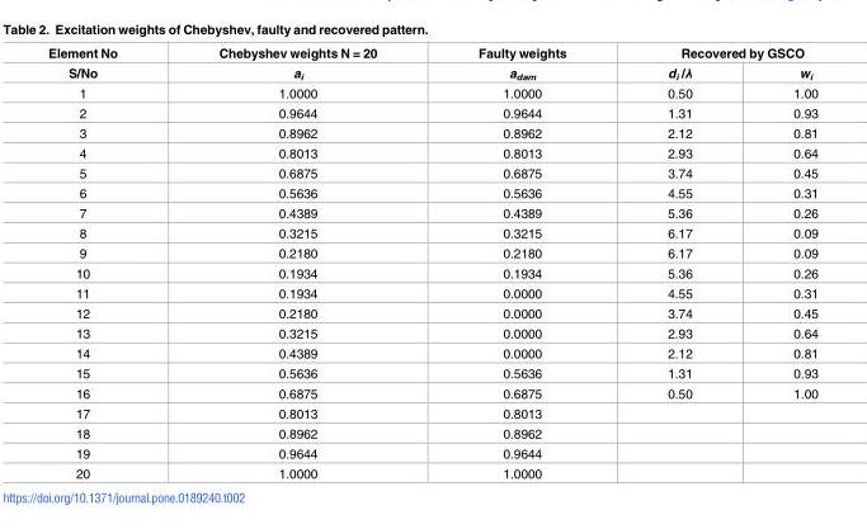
<table><thead><tr><td rowspan="2">Element No S/No</td><td rowspan="2">Chebyshev weights N = 20 a<sub>i</sub></td><td rowspan="2">Faulty weights a<sub>dam</sub></td><td colspan="2">Recovered by GSCO</td></tr><tr><td>d<sub>i</sub> /λ</td><td>w<sub>i</sub></td></tr></thead><tbody><tr><td>1</td><td>1.0000</td><td>1.0000</td><td>0.50</td><td>1.00</td></tr><tr><td>2</td><td>0.9644</td><td>0.9644</td><td>1.31</td><td>0.93</td></tr><tr><td>3</td><td>0.8962</td><td>0.8962</td><td>2.12</td><td>0.81</td></tr><tr><td>4</td><td>0.8013</td><td>0.8013</td><td>2.93</td><td>0.64</td></tr><tr><td>5</td><td>0.6875</td><td>0.6875</td><td>3.74</td><td>0.45</td></tr><tr><td>6</td><td>0.5636</td><td>0.5636</td><td>4.55</td><td>0.31</td></tr><tr><td>7</td><td>0.4389</td><td>0.4389</td><td>5.36</td><td>0.26</td></tr><tr><td>8</td><td>0.3215</td><td>0.3215</td><td>6.17</td><td>0.09</td></tr><tr><td>9</td><td>0.2180</td><td>0.2180</td><td>6.17</td><td>0.09</td></tr><tr><td>10</td><td>0.1934</td><td>0.1934</td><td>5.36</td><td>0.26</td></tr><tr><td>11</td><td>0.1934</td><td>0.0000</td><td>4.55</td><td>0.31</td></tr><tr><td>12</td><td>0.2180</td><td>0.0000</td><td>3.74</td><td>0.45</td></tr><tr><td>13</td><td>0.3215</td><td>0.0000</td><td>2.93</td><td>0.64</td></tr><tr><td>14</td><td>0.4389</td><td>0.0000</td><td>2.12</td><td>0.81</td></tr><tr><td>15</td><td>0.5636</td><td>0.5636</td><td>1.31</td><td>0.93</td></tr><tr><td>16</td><td>0.6875</td><td>0.6875</td><td>0.50</td><td>1.00</td></tr><tr><td>17</td><td>0.8013</td><td>0.8013</td><td></td><td></td></tr><tr><td>18</td><td>0.8962</td><td>0.8962</td><td></td><td></td></tr><tr><td>19</td><td>0.9644</td><td>0.9644</td><td></td><td></td></tr><tr><td>20</td><td>1.0000</td><td>1.0000</td><td></td><td></td></tr></tbody></table>